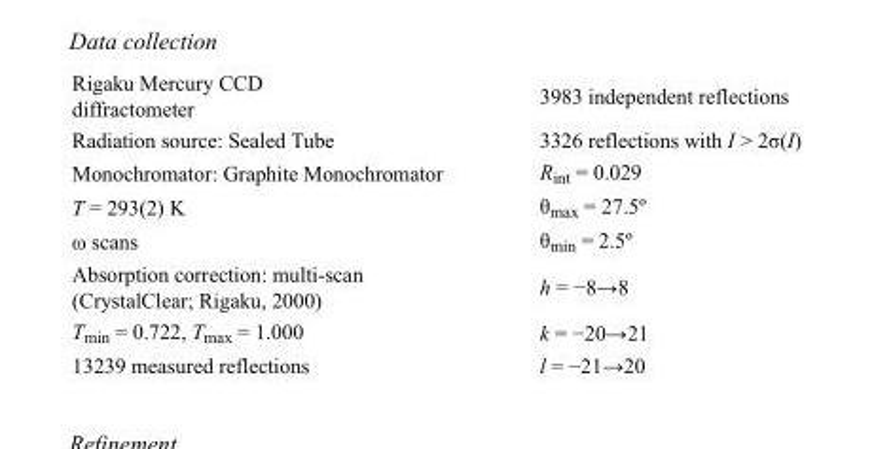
<table><tbody><tr><td>Rigaku Mercury CCD diffractometer</td><td>3983 independent reflections</td></tr><tr><td>Radiation source: Sealed Tube</td><td>3326 reflections with I &gt; 2σ(I)</td></tr><tr><td>Monochromator: Graphite Monochromator</td><td>R<sub>int</sub> = 0.029</td></tr><tr><td>T = 293(2) K</td><td>θ<sub>max</sub> = 27.5º</td></tr><tr><td>ω scans</td><td>θ<sub>min</sub> = 2.5º</td></tr><tr><td>Absorption correction: multi-scan (CrystalClear; Rigaku, 2000)</td><td>h = −8→8</td></tr><tr><td>T<sub>min</sub> = 0.722, T<sub>max</sub> = 1.000</td><td>k = −20→21</td></tr><tr><td>13239 measured reflections</td><td>l = −21→20</td></tr></tbody></table>